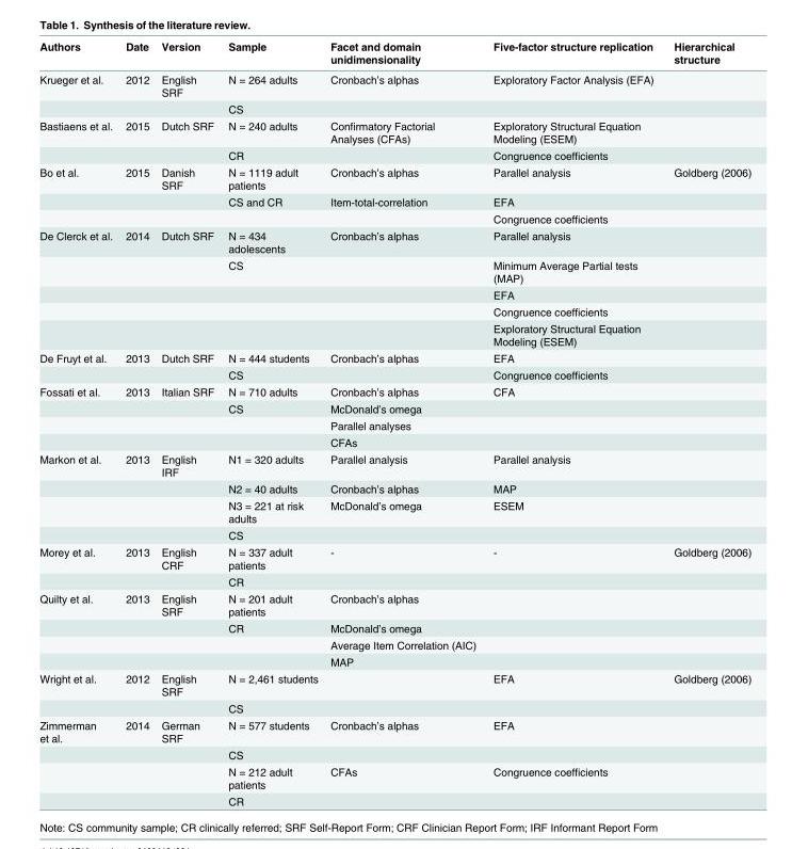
<table><thead><tr><td>Authors</td><td>Date</td><td>Version</td><td>Sample</td><td>Facet and domain unidimensionality</td><td>Five-factor structure replication</td><td>Hierarchical structure</td></tr></thead><tbody><tr><td rowspan="2">Krueger et al.</td><td>2012</td><td>English SRF</td><td>N = 264 adults</td><td>Cronbach’s alphas</td><td>Exploratory Factor Analysis (EFA)</td><td></td></tr><tr><td></td><td></td><td>CS</td><td></td><td></td><td></td></tr><tr><td rowspan="2">Bastiaens et al.</td><td>2015</td><td>Dutch SRF</td><td>N = 240 adults</td><td>Confirmatory Factorial Analyses (CFAs)</td><td>Exploratory Structural Equation Modeling (ESEM)</td><td></td></tr><tr><td></td><td></td><td>CR</td><td></td><td>Congruence coefficients</td><td></td></tr><tr><td rowspan="3">Bo et al.</td><td>2015</td><td>Danish SRF</td><td>N = 1119 adult patients</td><td>Cronbach’s alphas</td><td>Parallel analysis</td><td>Goldberg (2006)</td></tr><tr><td></td><td></td><td>CS and CR</td><td>Item-total-correlation</td><td>EFA</td><td></td></tr><tr><td></td><td></td><td></td><td></td><td>Congruence coefficients</td><td></td></tr><tr><td rowspan="5">De Clerck et al.</td><td>2014</td><td>Dutch SRF</td><td>N = 434 adolescents</td><td>Cronbach’s alphas</td><td>Parallel analysis</td><td></td></tr><tr><td></td><td></td><td>CS</td><td></td><td>Minimum Average Partial tests (MAP)</td><td></td></tr><tr><td></td><td></td><td></td><td></td><td>EFA</td><td></td></tr><tr><td></td><td></td><td></td><td></td><td>Congruence coefficients</td><td></td></tr><tr><td></td><td></td><td></td><td></td><td>Exploratory Structural Equation Modeling (ESEM)</td><td></td></tr><tr><td rowspan="2">De Fruyt et al.</td><td>2013</td><td>Dutch SRF</td><td>N = 444 students</td><td>Cronbach’s alphas</td><td>EFA</td><td></td></tr><tr><td></td><td></td><td>CS</td><td></td><td>Congruence coefficients</td><td></td></tr><tr><td rowspan="4">Fossati et al.</td><td>2013</td><td>Italian SRF</td><td>N = 710 adults</td><td>Cronbach’s alphas</td><td>CFA</td><td></td></tr><tr><td></td><td></td><td>CS</td><td>McDonald’s omega</td><td></td><td></td></tr><tr><td></td><td></td><td></td><td>Parallel analyses</td><td></td><td></td></tr><tr><td></td><td></td><td></td><td>CFAs</td><td></td><td></td></tr><tr><td rowspan="4">Markon et al.</td><td>2013</td><td>English IRF</td><td>N1 = 320 adults</td><td>Parallel analysis</td><td>Parallel analysis</td><td></td></tr><tr><td></td><td></td><td>N2 = 40 adults</td><td>Cronbach’s alphas</td><td>MAP</td><td></td></tr><tr><td></td><td></td><td>N3 = 221 at risk adults</td><td>McDonald’s omega</td><td>ESEM</td><td></td></tr><tr><td></td><td></td><td>CS</td><td></td><td></td><td></td></tr><tr><td rowspan="2">Morey et al.</td><td>2013</td><td>English CRF</td><td>N = 337 adult patients</td><td>-</td><td>-</td><td>Goldberg (2006)</td></tr><tr><td></td><td></td><td>CR</td><td></td><td></td><td></td></tr><tr><td rowspan="4">Quilty et al.</td><td>2013</td><td>English SRF</td><td>N = 201 adult patients</td><td>Cronbach’s alphas</td><td></td><td></td></tr><tr><td></td><td></td><td>CR</td><td>McDonald’s omega</td><td></td><td></td></tr><tr><td></td><td></td><td></td><td>Average Item Correlation (AIC)</td><td></td><td></td></tr><tr><td></td><td></td><td></td><td>MAP</td><td></td><td></td></tr><tr><td rowspan="2">Wright et al.</td><td>2012</td><td>English SRF</td><td>N = 2,461 students</td><td></td><td>EFA</td><td>Goldberg (2006)</td></tr><tr><td></td><td></td><td>CS</td><td></td><td></td><td></td></tr><tr><td rowspan="4">Zimmerman et al.</td><td>2014</td><td>German SRF</td><td>N = 577 students</td><td>Cronbach’s alphas</td><td>EFA</td><td></td></tr><tr><td></td><td></td><td>CS</td><td></td><td></td><td></td></tr><tr><td></td><td></td><td>N = 212 adult patients</td><td>CFAs</td><td>Congruence coefficients</td><td></td></tr><tr><td></td><td></td><td>CR</td><td></td><td></td><td></td></tr></tbody></table>